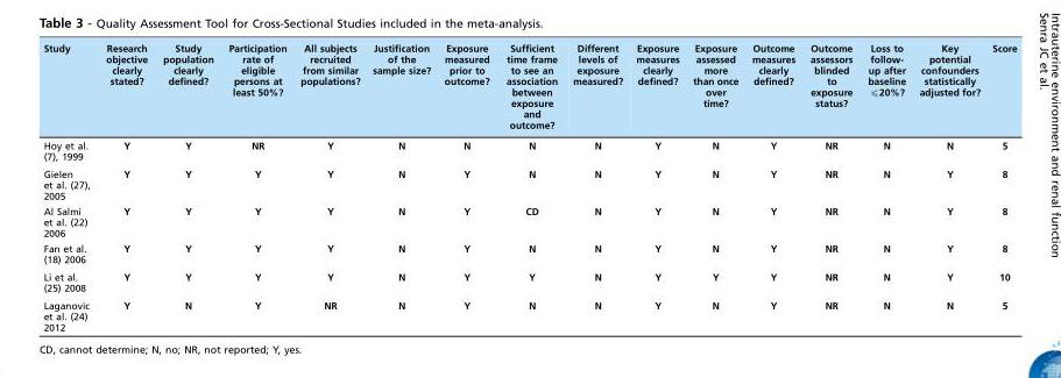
<table><thead><tr><td>Study</td><td>Research objective clearly stated?</td><td>Study population clearly defined?</td><td>Participation rate of eligible persons at least 50%?</td><td>All subjects recruited from similar populations?</td><td>Justification of the sample size?</td><td>Exposure measured prior to outcome?</td><td>Sufficient time frame to see an association between exposure and outcome?</td><td>Different levels of exposure measured?</td><td>Exposure measures clearly defined?</td><td>Exposure assessed more than once over time?</td><td>Outcome measures clearly defined?</td><td>Outcome assessors blinded to exposure status?</td><td>Loss to follow- up after baseline ≤20%?</td><td>Key potential confounders statistically adjusted for?</td><td>Score</td></tr></thead><tbody><tr><td>Hoy et al. (7), 1999</td><td>Y</td><td>Y</td><td>NR</td><td>Y</td><td>N</td><td>N</td><td>N</td><td>N</td><td>Y</td><td>N</td><td>Y</td><td>NR</td><td>N</td><td>N</td><td>5</td></tr><tr><td>Gielen et al. (27), 2005</td><td>Y</td><td>Y</td><td>Y</td><td>Y</td><td>N</td><td>Y</td><td>N</td><td>N</td><td>Y</td><td>N</td><td>Y</td><td>NR</td><td>N</td><td>Y</td><td>8</td></tr><tr><td>Al Salmi et al. (22) 2006</td><td>Y</td><td>Y</td><td>Y</td><td>Y</td><td>N</td><td>Y</td><td>CD</td><td>N</td><td>Y</td><td>N</td><td>Y</td><td>NR</td><td>N</td><td>Y</td><td>8</td></tr><tr><td>Fan et al. (18) 2006</td><td>Y</td><td>Y</td><td>Y</td><td>Y</td><td>N</td><td>Y</td><td>N</td><td>N</td><td>Y</td><td>N</td><td>Y</td><td>NR</td><td>N</td><td>Y</td><td>8</td></tr><tr><td>Li et al. (25) 2008</td><td>Y</td><td>Y</td><td>Y</td><td>Y</td><td>N</td><td>Y</td><td>Y</td><td>N</td><td>Y</td><td>Y</td><td>Y</td><td>NR</td><td>N</td><td>Y</td><td>10</td></tr><tr><td>Laganovic et al. (24) 2012</td><td>Y</td><td>N</td><td>Y</td><td>NR</td><td>N</td><td>Y</td><td>N</td><td>N</td><td>Y</td><td>N</td><td>Y</td><td>NR</td><td>N</td><td>N</td><td>5</td></tr></tbody></table>